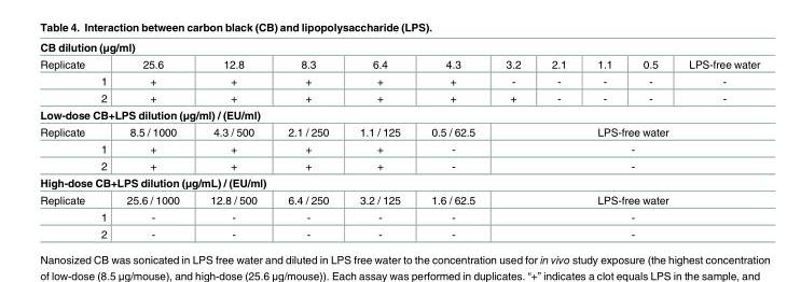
<table><tbody><tr><td colspan="11">CB dilution (μg/ml)</td></tr><tr><td>Replicate</td><td>25.6</td><td>12.8</td><td>8.3</td><td>6.4</td><td>4.3</td><td>3.2</td><td>2.1</td><td>1.1</td><td>0.5</td><td>LPS-free water</td></tr><tr><td>1</td><td>+</td><td>+</td><td>+</td><td>+</td><td>+</td><td>-</td><td>-</td><td>-</td><td>-</td><td>-</td></tr><tr><td>2</td><td>+</td><td>+</td><td>+</td><td>+</td><td>+</td><td>+</td><td>-</td><td>-</td><td>-</td><td>-</td></tr><tr><td colspan="11">Low-dose CB+LPS dilution (μg/ml) / (EU/ml)</td></tr><tr><td>Replicate</td><td>8.5 / 1000</td><td>4.3 / 500</td><td>2.1 / 250</td><td>1.1 / 125</td><td>0.5 / 62.5</td><td colspan="5">LPS-free water</td></tr><tr><td>1</td><td>+</td><td>+</td><td>+</td><td>+</td><td>-</td><td colspan="5">-</td></tr><tr><td>2</td><td>+</td><td>+</td><td>+</td><td>+</td><td>-</td><td colspan="5">-</td></tr><tr><td colspan="11">High-dose CB+LPS dilution (μg/mL) / (EU/ml)</td></tr><tr><td>Replicate</td><td>25.6 / 1000</td><td>12.8 / 500</td><td>6.4 / 250</td><td>3.2 / 125</td><td>1.6 / 62.5</td><td colspan="5">LPS-free water</td></tr><tr><td>1</td><td>-</td><td>-</td><td>-</td><td>-</td><td>-</td><td colspan="5">-</td></tr><tr><td>2</td><td>-</td><td>-</td><td>-</td><td>-</td><td>-</td><td colspan="5">-</td></tr></tbody></table>